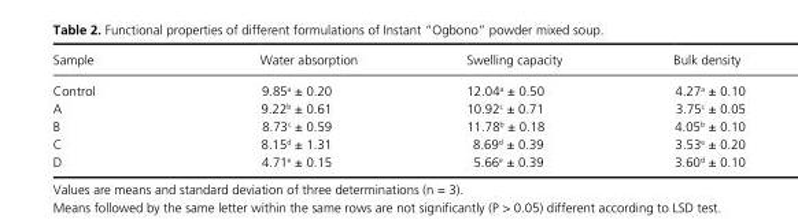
<table><thead><tr><td>Sample</td><td>Water absorption</td><td>Swelling capacity</td><td>Bulk density</td></tr></thead><tbody><tr><td>Control</td><td>9.85 <sup>a</sup> ± 0.20</td><td>12.04 <sup>a</sup> ± 0.50</td><td>4.27 <sup>a</sup> ± 0.10</td></tr><tr><td>A</td><td>9.22 <sup>b</sup> ± 0.61</td><td>10.92 <sup>c</sup> ± 0.71</td><td>3.75 <sup>c</sup> ± 0.05</td></tr><tr><td>B</td><td>8.73 <sup>c</sup> ± 0.59</td><td>11.78 <sup>b</sup> ± 0.18</td><td>4.05 <sup>b</sup> ± 0.10</td></tr><tr><td>C</td><td>8.15 <sup>d</sup> ± 1.31</td><td>8.69 <sup>d</sup> ± 0.39</td><td>3.53 <sup>e</sup> ± 0.20</td></tr><tr><td>D</td><td>4.71 <sup>e</sup> ± 0.15</td><td>5.66 <sup>e</sup> ± 0.39</td><td>3.60 <sup>d</sup> ± 0.10</td></tr></tbody></table>